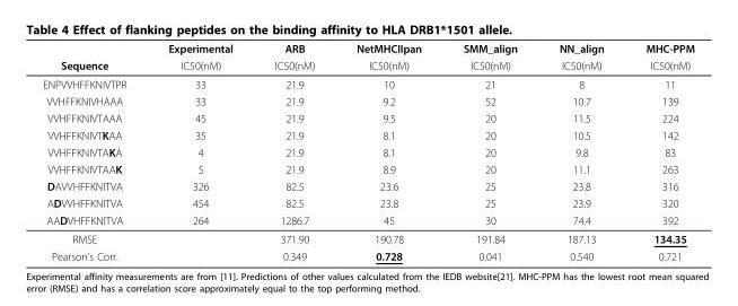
<table><thead><tr><td rowspan="2">Sequence</td><td rowspan="2">Experimental IC50(nM)</td><td rowspan="2">ARB IC50(nM)</td><td rowspan="2">NetMHCIIpan IC50(nM)</td><td rowspan="2">SMM_align IC50(nM)</td><td rowspan="2">NN_align IC50(nM)</td><td rowspan="2">MHC-PPM IC50(nM)</td></tr><tr></tr></thead><tbody><tr><td>ENPVVHFFKNIVTPR</td><td>33</td><td>21.9</td><td>10</td><td>21</td><td>8</td><td>11</td></tr><tr><td>VVHFFKNIVHAAA</td><td>33</td><td>21.9</td><td>9.2</td><td>52</td><td>10.7</td><td>139</td></tr><tr><td>VVHFFKNIVTAAA</td><td>45</td><td>21.9</td><td>9.5</td><td>20</td><td>11.5</td><td>224</td></tr><tr><td>VVHFFKNIVTKAA</td><td>35</td><td>21.9</td><td>8.1</td><td>20</td><td>10.5</td><td>142</td></tr><tr><td>VVHFFKNIVTAKA</td><td>4</td><td>21.9</td><td>8.1</td><td>20</td><td>9.8</td><td>83</td></tr><tr><td>VVHFFKNIVTAAK</td><td>5</td><td>21.9</td><td>8.9</td><td>20</td><td>11.1</td><td>263</td></tr><tr><td>DAVVHFFKNITVA</td><td>326</td><td>82.5</td><td>23.6</td><td>25</td><td>23.8</td><td>316</td></tr><tr><td>ADVVHFFKNITVA</td><td>454</td><td>82.5</td><td>23.8</td><td>25</td><td>23.9</td><td>320</td></tr><tr><td>AADVHFFKNITVA</td><td>264</td><td>1286.7</td><td>45</td><td>30</td><td>74.4</td><td>392</td></tr><tr><td>RMSE</td><td></td><td>371.90</td><td>190.78</td><td>191.84</td><td>187.13</td><td>134.35</td></tr><tr><td>Pearson’s Corr.</td><td></td><td>0.349</td><td>0.728</td><td>0.041</td><td>0.540</td><td>0.721</td></tr></tbody></table>